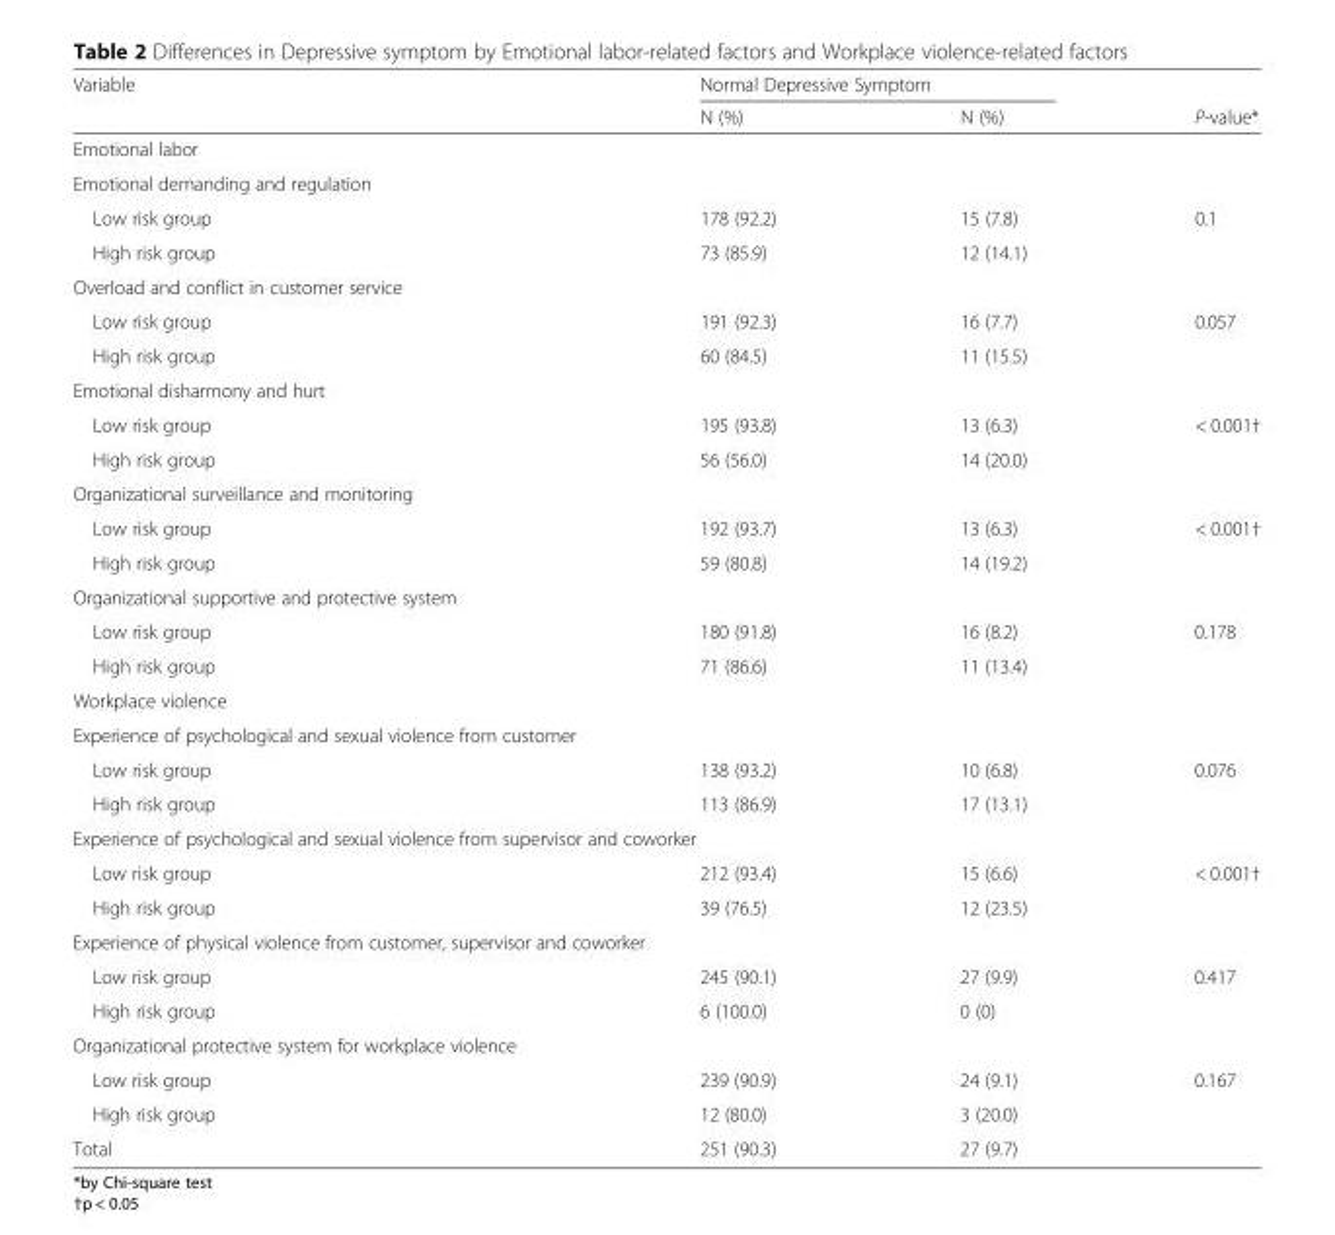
<table><thead><tr><td rowspan="2">Variable</td><td colspan="2">Normal Depressive Symptom</td><td rowspan="2">P-value*</td></tr><tr><td>N (%)</td><td>N (%)</td></tr></thead><tbody><tr><td colspan="4">Emotional labor</td></tr><tr><td colspan="4">Emotional demanding and regulation</td></tr><tr><td>Low risk group</td><td>178 (92.2)</td><td>15 (7.8)</td><td>0.1</td></tr><tr><td>High risk group</td><td>73 (85.9)</td><td>12 (14.1)</td><td></td></tr><tr><td colspan="4">Overload and conflict in customer service</td></tr><tr><td>Low risk group</td><td>191 (92.3)</td><td>16 (7.7)</td><td>0.057</td></tr><tr><td>High risk group</td><td>60 (84.5)</td><td>11 (15.5)</td><td></td></tr><tr><td colspan="4">Emotional disharmony and hurt</td></tr><tr><td>Low risk group</td><td>195 (93.8)</td><td>13 (6.3)</td><td>&lt; 0.001†</td></tr><tr><td>High risk group</td><td>56 (56.0)</td><td>14 (20.0)</td><td></td></tr><tr><td colspan="4">Organizational surveillance and monitoring</td></tr><tr><td>Low risk group</td><td>192 (93.7)</td><td>13 (6.3)</td><td>&lt; 0.001†</td></tr><tr><td>High risk group</td><td>59 (80.8)</td><td>14 (19.2)</td><td></td></tr><tr><td colspan="4">Organizational supportive and protective system</td></tr><tr><td>Low risk group</td><td>180 (91.8)</td><td>16 (8.2)</td><td>0.178</td></tr><tr><td>High risk group</td><td>71 (86.6)</td><td>11 (13.4)</td><td></td></tr><tr><td colspan="4">Workplace violence</td></tr><tr><td colspan="4">Experience of psychological and sexual violence from customer</td></tr><tr><td>Low risk group</td><td>138 (93.2)</td><td>10 (6.8)</td><td>0.076</td></tr><tr><td>High risk group</td><td>113 (86.9)</td><td>17 (13.1)</td><td></td></tr><tr><td colspan="4">Experience of psychological and sexual violence from supervisor and coworker</td></tr><tr><td>Low risk group</td><td>212 (93.4)</td><td>15 (6.6)</td><td>&lt; 0.001†</td></tr><tr><td>High risk group</td><td>39 (76.5)</td><td>12 (23.5)</td><td></td></tr><tr><td colspan="4">Experience of physical violence from customer, supervisor and coworker</td></tr><tr><td>Low risk group</td><td>245 (90.1)</td><td>27 (9.9)</td><td>0.417</td></tr><tr><td>High risk group</td><td>6 (100.0)</td><td>0 (0)</td><td></td></tr><tr><td colspan="4">Organizational protective system for workplace violence</td></tr><tr><td>Low risk group</td><td>239 (90.9)</td><td>24 (9.1)</td><td>0.167</td></tr><tr><td>High risk group</td><td>12 (80.0)</td><td>3 (20.0)</td><td></td></tr><tr><td>Total</td><td>251 (90.3)</td><td>27 (9.7)</td><td></td></tr></tbody></table>